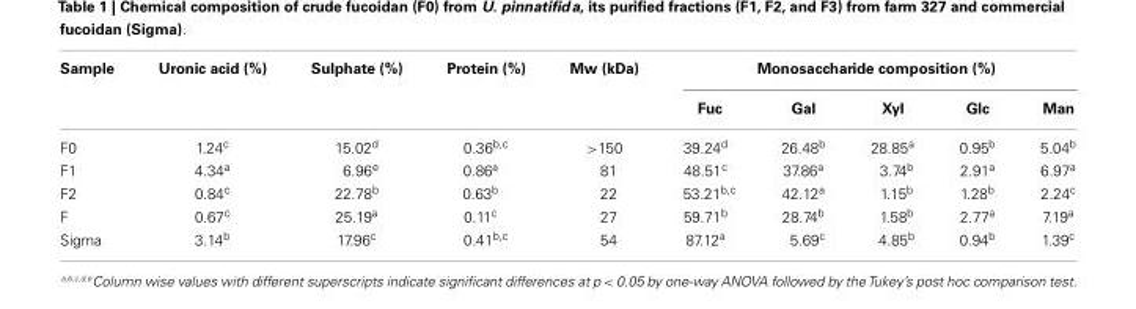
<table><thead><tr><td rowspan="2">Sample</td><td rowspan="2">Uronic acid (%)</td><td rowspan="2">Sulphate (%)</td><td rowspan="2">Protein (%)</td><td rowspan="2">Mw (kDa)</td><td colspan="5">Monosaccharide composition (%)</td></tr><tr><td>Fuc</td><td>Gal</td><td>Xyl</td><td>Glc</td><td>Man</td></tr></thead><tbody><tr><td>F0</td><td>1.24<sup>c</sup></td><td>15.02<sup>d</sup></td><td>0.36<sup>b,c</sup></td><td>&gt;150</td><td>39.24<sup>d</sup></td><td>26.48<sup>b</sup></td><td>28.85<sup>a</sup></td><td>0.95<sup>b</sup></td><td>5.04<sup>b</sup></td></tr><tr><td>F1</td><td>4.34<sup>a</sup></td><td>6.96<sup>e</sup></td><td>0.86<sup>a</sup></td><td>81</td><td>48.51<sup>c</sup></td><td>37.86<sup>a</sup></td><td>3.74<sup>b</sup></td><td>2.91<sup>a</sup></td><td>6.97<sup>a</sup></td></tr><tr><td>F2</td><td>0.84<sup>c</sup></td><td>22.78<sup>b</sup></td><td>0.63<sup>b</sup></td><td>22</td><td>53.21<sup>b,c</sup></td><td>42.12<sup>a</sup></td><td>1.15<sup>b</sup></td><td>1.28<sup>b</sup></td><td>2.24<sup>c</sup></td></tr><tr><td>F</td><td>0.67<sup>c</sup></td><td>25.19<sup>a</sup></td><td>0.11<sup>c</sup></td><td>27</td><td>59.71<sup>b</sup></td><td>28.74<sup>b</sup></td><td>1.58<sup>b</sup></td><td>2.77<sup>a</sup></td><td>7.19<sup>a</sup></td></tr><tr><td>Sigma</td><td>3.14<sup>b</sup></td><td>17.96<sup>c</sup></td><td>0.41<sup>b,c</sup></td><td>54</td><td>87.12<sup>a</sup></td><td>5.69<sup>c</sup></td><td>4.85<sup>b</sup></td><td>0.94<sup>b</sup></td><td>1.39<sup>c</sup></td></tr></tbody></table>